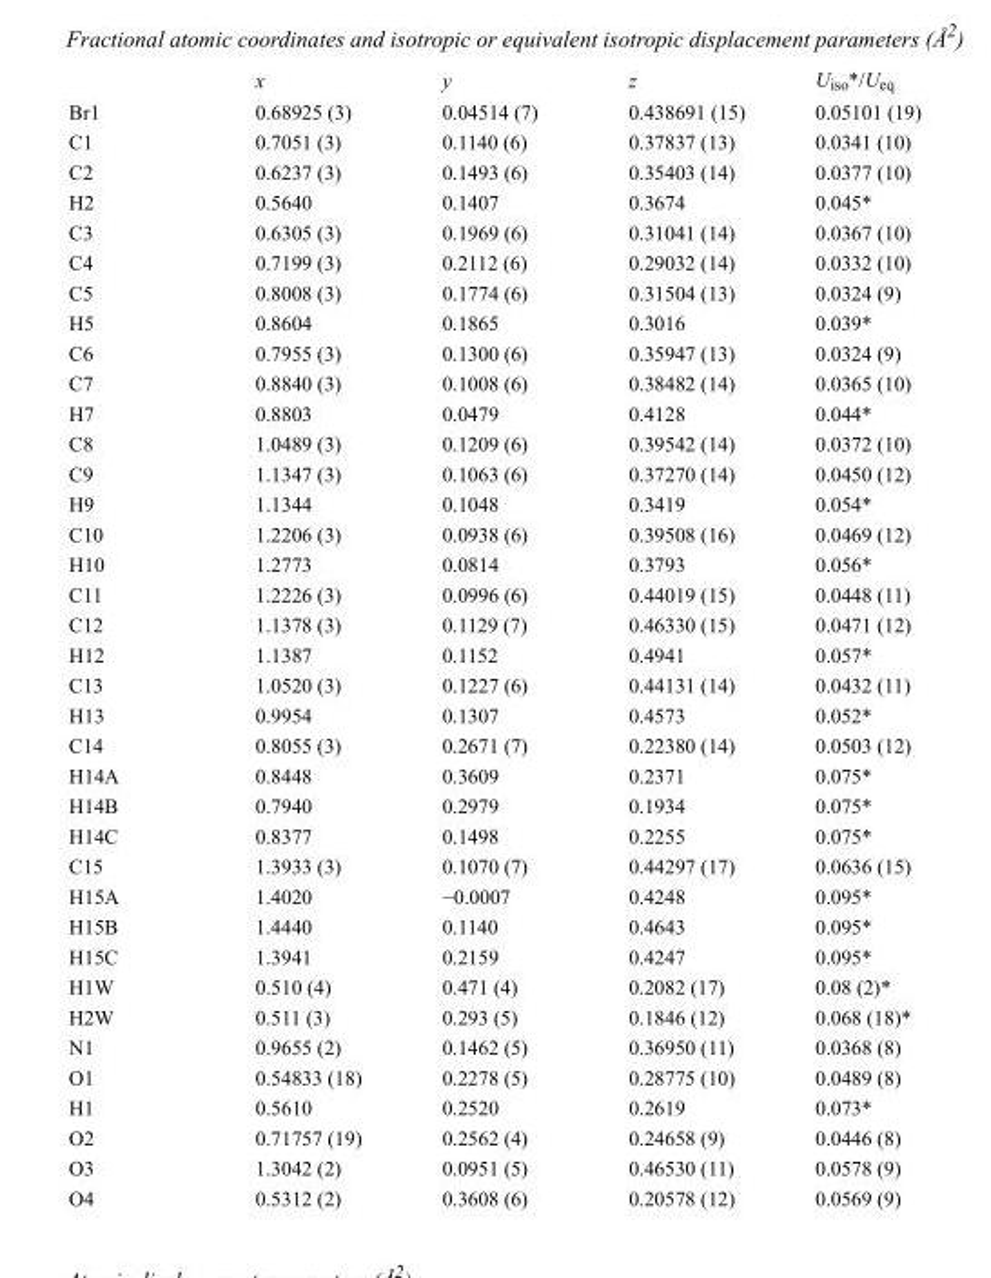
<table><thead><tr><td></td><td>x</td><td>y</td><td>z</td><td>U<sub>iso</sub>*/U<sub>eq</sub></td></tr></thead><tbody><tr><td>Br1</td><td>0.68925 (3)</td><td>0.04514 (7)</td><td>0.438691 (15)</td><td>0.05101 (19)</td></tr><tr><td>C1</td><td>0.7051 (3)</td><td>0.1140 (6)</td><td>0.37837 (13)</td><td>0.0341 (10)</td></tr><tr><td>C2</td><td>0.6237 (3)</td><td>0.1493 (6)</td><td>0.35403 (14)</td><td>0.0377 (10)</td></tr><tr><td>H2</td><td>0.5640</td><td>0.1407</td><td>0.3674</td><td>0.045*</td></tr><tr><td>C3</td><td>0.6305 (3)</td><td>0.1969 (6)</td><td>0.31041 (14)</td><td>0.0367 (10)</td></tr><tr><td>C4</td><td>0.7199 (3)</td><td>0.2112 (6)</td><td>0.29032 (14)</td><td>0.0332 (10)</td></tr><tr><td>C5</td><td>0.8008 (3)</td><td>0.1774 (6)</td><td>0.31504 (13)</td><td>0.0324 (9)</td></tr><tr><td>H5</td><td>0.8604</td><td>0.1865</td><td>0.3016</td><td>0.039*</td></tr><tr><td>C6</td><td>0.7955 (3)</td><td>0.1300 (6)</td><td>0.35947 (13)</td><td>0.0324 (9)</td></tr><tr><td>C7</td><td>0.8840 (3)</td><td>0.1008 (6)</td><td>0.38482 (14)</td><td>0.0365 (10)</td></tr><tr><td>H7</td><td>0.8803</td><td>0.0479</td><td>0.4128</td><td>0.044*</td></tr><tr><td>C8</td><td>1.0489 (3)</td><td>0.1209 (6)</td><td>0.39542 (14)</td><td>0.0372 (10)</td></tr><tr><td>C9</td><td>1.1347 (3)</td><td>0.1063 (6)</td><td>0.37270 (14)</td><td>0.0450 (12)</td></tr><tr><td>H9</td><td>1.1344</td><td>0.1048</td><td>0.3419</td><td>0.054*</td></tr><tr><td>C10</td><td>1.2206 (3)</td><td>0.0938 (6)</td><td>0.39508 (16)</td><td>0.0469 (12)</td></tr><tr><td>H10</td><td>1.2773</td><td>0.0814</td><td>0.3793</td><td>0.056*</td></tr><tr><td>C11</td><td>1.2226 (3)</td><td>0.0996 (6)</td><td>0.44019 (15)</td><td>0.0448 (11)</td></tr><tr><td>C12</td><td>1.1378 (3)</td><td>0.1129 (7)</td><td>0.46330 (15)</td><td>0.0471 (12)</td></tr><tr><td>H12</td><td>1.1387</td><td>0.1152</td><td>0.4941</td><td>0.057*</td></tr><tr><td>C13</td><td>1.0520 (3)</td><td>0.1227 (6)</td><td>0.44131 (14)</td><td>0.0432 (11)</td></tr><tr><td>H13</td><td>0.9954</td><td>0.1307</td><td>0.4573</td><td>0.052*</td></tr><tr><td>C14</td><td>0.8055 (3)</td><td>0.2671 (7)</td><td>0.22380 (14)</td><td>0.0503 (12)</td></tr><tr><td>H14A</td><td>0.8448</td><td>0.3609</td><td>0.2371</td><td>0.075*</td></tr><tr><td>H14B</td><td>0.7940</td><td>0.2979</td><td>0.1934</td><td>0.075*</td></tr><tr><td>H14C</td><td>0.8377</td><td>0.1498</td><td>0.2255</td><td>0.075*</td></tr><tr><td>C15</td><td>1.3933 (3)</td><td>0.1070 (7)</td><td>0.44297 (17)</td><td>0.0636 (15)</td></tr><tr><td>H15A</td><td>1.4020</td><td>−0.0007</td><td>0.4248</td><td>0.095*</td></tr><tr><td>H15B</td><td>1.4440</td><td>0.1140</td><td>0.4643</td><td>0.095*</td></tr><tr><td>H15C</td><td>1.3941</td><td>0.2159</td><td>0.4247</td><td>0.095*</td></tr><tr><td>H1W</td><td>0.510 (4)</td><td>0.471 (4)</td><td>0.2082 (17)</td><td>0.08 (2)*</td></tr><tr><td>H2W</td><td>0.511 (3)</td><td>0.293 (5)</td><td>0.1846 (12)</td><td>0.068 (18)*</td></tr><tr><td>N1</td><td>0.9655 (2)</td><td>0.1462 (5)</td><td>0.36950 (11)</td><td>0.0368 (8)</td></tr><tr><td>O1</td><td>0.54833 (18)</td><td>0.2278 (5)</td><td>0.28775 (10)</td><td>0.0489 (8)</td></tr><tr><td>H1</td><td>0.5610</td><td>0.2520</td><td>0.2619</td><td>0.073*</td></tr><tr><td>O2</td><td>0.71757 (19)</td><td>0.2562 (4)</td><td>0.24658 (9)</td><td>0.0446 (8)</td></tr><tr><td>O3</td><td>1.3042 (2)</td><td>0.0951 (5)</td><td>0.46530 (11)</td><td>0.0578 (9)</td></tr><tr><td>O4</td><td>0.5312 (2)</td><td>0.3608 (6)</td><td>0.20578 (12)</td><td>0.0569 (9)</td></tr></tbody></table>